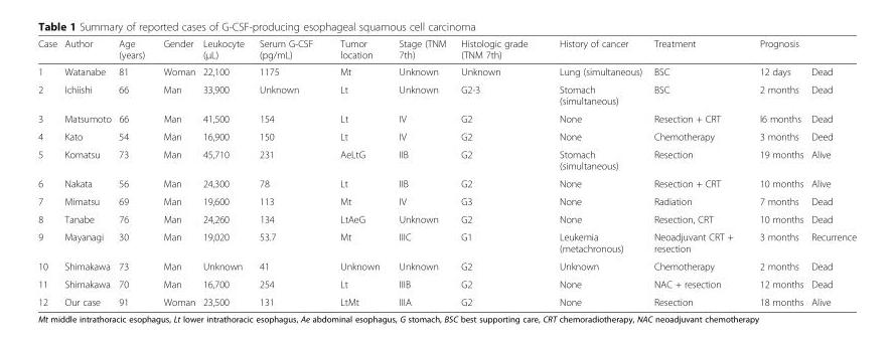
<table><thead><tr><td rowspan="2">Case 1</td><td rowspan="2">Author Watanabe</td><td rowspan="2">Age (years) 81</td><td rowspan="2">Gender Woman</td><td rowspan="2">Leukocyte (μL) 22,100</td><td rowspan="2">Serum G-CSF (pg/mL) 1175</td><td rowspan="2">Tumor location Mt</td><td rowspan="2">Stage (TNM 7th) Unknown</td><td rowspan="2">Histologic grade (TNM 7th) Unknown</td><td rowspan="2">History of cancer Lung (simultaneous)</td><td rowspan="2">Treatment BSC</td><td colspan="2">Prognosis</td></tr><tr><td>12 days</td><td>Dead</td></tr></thead><tbody><tr><td>2</td><td>Ichiishi</td><td>66</td><td>Man</td><td>33,900</td><td>Unknown</td><td>Lt</td><td>Unknown</td><td>G2-3</td><td>Stomach (simultaneous)</td><td>BSC</td><td>2 months</td><td>Dead</td></tr><tr><td>3</td><td>Matsumoto</td><td>66</td><td>Man</td><td>41,500</td><td>154</td><td>Lt</td><td>IV</td><td>G2</td><td>None</td><td>Resection + CRT</td><td>l6 months</td><td>Dead</td></tr><tr><td>4</td><td>Kato</td><td>54</td><td>Man</td><td>16,900</td><td>150</td><td>Lt</td><td>IV</td><td>G2</td><td>None</td><td>Chemotherapy</td><td>3 months</td><td>Deed</td></tr><tr><td>5</td><td>Komatsu</td><td>73</td><td>Man</td><td>45,710</td><td>231</td><td>AeLtG</td><td>IIB</td><td>G2</td><td>Stomach (simultaneous)</td><td>Resection</td><td>19 months</td><td>Alive</td></tr><tr><td>6</td><td>Nakata</td><td>56</td><td>Man</td><td>24,300</td><td>78</td><td>Lt</td><td>IIB</td><td>G2</td><td>None</td><td>Resection + CRT</td><td>10 months</td><td>Alive</td></tr><tr><td>7</td><td>Mimatsu</td><td>69</td><td>Man</td><td>19,600</td><td>113</td><td>Mt</td><td>IV</td><td>G3</td><td>None</td><td>Radiation</td><td>7 months</td><td>Dead</td></tr><tr><td>8</td><td>Tanabe</td><td>76</td><td>Man</td><td>24,260</td><td>134</td><td>LtAeG</td><td>Unknown</td><td>G2</td><td>None</td><td>Resection, CRT</td><td>10 months</td><td>Dead</td></tr><tr><td>9</td><td>Mayanagi</td><td>30</td><td>Man</td><td>19,020</td><td>53.7</td><td>Mt</td><td>IIIC</td><td>G1</td><td>Leukemia (metachronous)</td><td>Neoadjuvant CRT + resection</td><td>3 months</td><td>Recurrence</td></tr><tr><td>10</td><td>Shimakawa</td><td>73</td><td>Man</td><td>Unknown</td><td>41</td><td>Unknown</td><td>Unknown</td><td>G2</td><td>Unknown</td><td>Chemotherapy</td><td>2 months</td><td>Dead</td></tr><tr><td>11</td><td>Shimakawa</td><td>70</td><td>Man</td><td>16,700</td><td>254</td><td>Lt</td><td>IIIB</td><td>G2</td><td>None</td><td>NAC + resection</td><td>12 months</td><td>Dead</td></tr><tr><td>12</td><td>Our case</td><td>91</td><td>Woman</td><td>23,500</td><td>131</td><td>LtMt</td><td>IIIA</td><td>G2</td><td>None</td><td>Resection</td><td>18 months</td><td>Alive</td></tr></tbody></table>